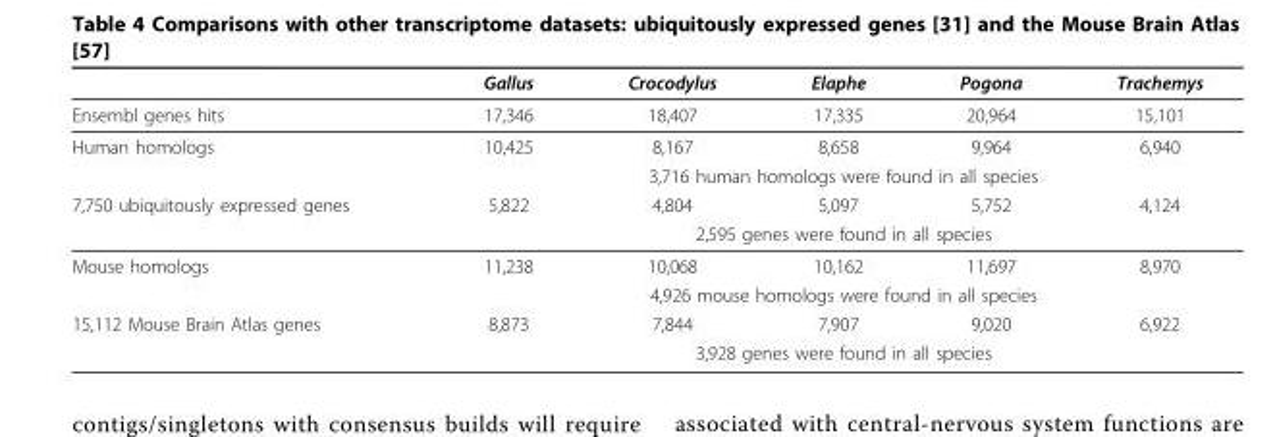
<table><thead><tr><td></td><td>Gallus</td><td>Crocodylus</td><td>Elaphe</td><td>Pogona</td><td>Trachemys</td></tr></thead><tbody><tr><td>Ensembl genes hits</td><td>17,346</td><td>18,407</td><td>17,335</td><td>20,964</td><td>15,101</td></tr><tr><td rowspan="2">Human homologs</td><td>10,425</td><td>8,167</td><td>8,658</td><td>9,964</td><td>6,940</td></tr><tr><td colspan="5">3,716 human homologs were found in all species</td></tr><tr><td rowspan="2">7,750 ubiquitously expressed genes</td><td>5,822</td><td>4,804</td><td>5,097</td><td>5,752</td><td>4,124</td></tr><tr><td colspan="5">2,595 genes were found in all species</td></tr><tr><td rowspan="2">Mouse homologs</td><td>11,238</td><td>10,068</td><td>10,162</td><td>11,697</td><td>8,970</td></tr><tr><td colspan="5">4,926 mouse homologs were found in all species</td></tr><tr><td rowspan="2">15,112 Mouse Brain Atlas genes</td><td>8,873</td><td>7,844</td><td>7,907</td><td>9,020</td><td>6,922</td></tr><tr><td colspan="5">3,928 genes were found in all species</td></tr></tbody></table>